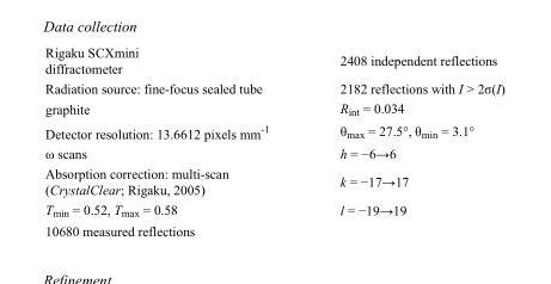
<table><tbody><tr><td>Rigaku SCXmini diffractometer</td><td>2408 independent reflections</td></tr><tr><td>Radiation source: fine-focus sealed tube</td><td>2182 reflections with I &gt; 2σ(I)</td></tr><tr><td>graphite</td><td>R<sub>int</sub> = 0.034</td></tr><tr><td>Detector resolution: 13.6612 pixels mm<sup>-1</sup></td><td>θ<sub>max</sub> = 27.5°, θ<sub>min</sub> = 3.1°</td></tr><tr><td>ω scans</td><td>h = −6→6</td></tr><tr><td>Absorption correction: multi-scan (CrystalClear; Rigaku, 2005)</td><td>k = −17→17</td></tr><tr><td>T<sub>min</sub> = 0.52, T<sub>max</sub> = 0.58</td><td>l = −19→19</td></tr><tr><td>10680 measured reflections</td><td></td></tr></tbody></table>